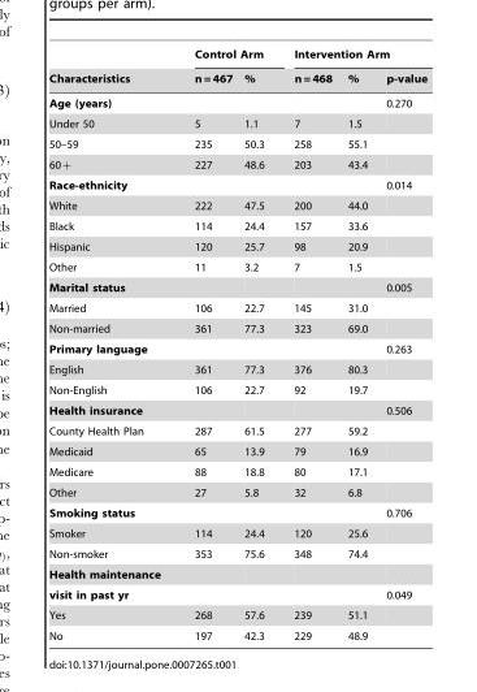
<table><thead><tr><td rowspan="2">Characteristics</td><td colspan="2">Control Arm</td><td colspan="3">Intervention Arm</td></tr><tr><td>n = 467</td><td>%</td><td>n = 468</td><td>%</td><td>p-value</td></tr></thead><tbody><tr><td>Age (years)</td><td></td><td></td><td></td><td></td><td>0.270</td></tr><tr><td>Under 50</td><td>5</td><td>1.1</td><td>7</td><td>1.5</td><td></td></tr><tr><td>50–59</td><td>235</td><td>50.3</td><td>258</td><td>55.1</td><td></td></tr><tr><td>60z</td><td>227</td><td>48.6</td><td>203</td><td>43.4</td><td></td></tr><tr><td>Race-ethnicity</td><td></td><td></td><td></td><td></td><td>0.014</td></tr><tr><td>White</td><td>222</td><td>47.5</td><td>200</td><td>44.0</td><td></td></tr><tr><td>Black</td><td>114</td><td>24.4</td><td>157</td><td>33.6</td><td></td></tr><tr><td>Hispanic</td><td>120</td><td>25.7</td><td>98</td><td>20.9</td><td></td></tr><tr><td>Other</td><td>11</td><td>3.2</td><td>7</td><td>1.5</td><td></td></tr><tr><td>Marital status</td><td></td><td></td><td></td><td></td><td>0.005</td></tr><tr><td>Married</td><td>106</td><td>22.7</td><td>145</td><td>31.0</td><td></td></tr><tr><td>Non-married</td><td>361</td><td>77.3</td><td>323</td><td>69.0</td><td></td></tr><tr><td>Primary language</td><td></td><td></td><td></td><td></td><td>0.263</td></tr><tr><td>English</td><td>361</td><td>77.3</td><td>376</td><td>80.3</td><td></td></tr><tr><td>Non-English</td><td>106</td><td>22.7</td><td>92</td><td>19.7</td><td></td></tr><tr><td>Health insurance</td><td></td><td></td><td></td><td></td><td>0.506</td></tr><tr><td>County Health Plan</td><td>287</td><td>61.5</td><td>277</td><td>59.2</td><td></td></tr><tr><td>Medicaid</td><td>65</td><td>13.9</td><td>79</td><td>16.9</td><td></td></tr><tr><td>Medicare</td><td>88</td><td>18.8</td><td>80</td><td>17.1</td><td></td></tr><tr><td>Other</td><td>27</td><td>5.8</td><td>32</td><td>6.8</td><td></td></tr><tr><td>Smoking status</td><td></td><td></td><td></td><td></td><td>0.706</td></tr><tr><td>Smoker</td><td>114</td><td>24.4</td><td>120</td><td>25.6</td><td></td></tr><tr><td>Non-smoker</td><td>353</td><td>75.6</td><td>348</td><td>74.4</td><td></td></tr><tr><td colspan="6">Health maintenance</td></tr><tr><td>visit in past yr</td><td></td><td></td><td></td><td></td><td>0.049</td></tr><tr><td>Yes</td><td>268</td><td>57.6</td><td>239</td><td>51.1</td><td></td></tr><tr><td>No</td><td>197</td><td>42.3</td><td>229</td><td>48.9</td><td></td></tr></tbody></table>